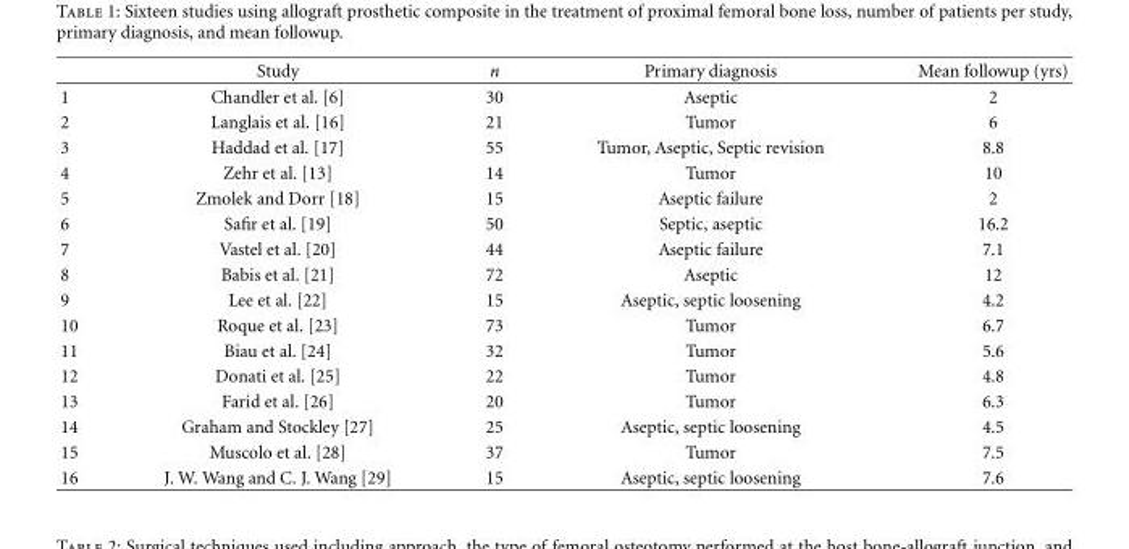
<table><thead><tr><td></td><td>Study</td><td>n</td><td>Primary diagnosis</td><td>Mean followup (yrs)</td></tr></thead><tbody><tr><td>1</td><td>Chandler et al. [6]</td><td>30</td><td>Aseptic</td><td>2</td></tr><tr><td>2</td><td>Langlais et al. [16]</td><td>21</td><td>Tumor</td><td>6</td></tr><tr><td>3</td><td>Haddad et al. [17]</td><td>55</td><td>Tumor, Aseptic, Septic revision</td><td>8.8</td></tr><tr><td>4</td><td>Zehr et al. [13]</td><td>14</td><td>Tumor</td><td>10</td></tr><tr><td>5</td><td>Zmolek and Dorr [18]</td><td>15</td><td>Aseptic failure</td><td>2</td></tr><tr><td>6</td><td>Safir et al. [19]</td><td>50</td><td>Septic, aseptic</td><td>16.2</td></tr><tr><td>7</td><td>Vastel et al. [20]</td><td>44</td><td>Aseptic failure</td><td>7.1</td></tr><tr><td>8</td><td>Babis et al. [21]</td><td>72</td><td>Aseptic</td><td>12</td></tr><tr><td>9</td><td>Lee et al. [22]</td><td>15</td><td>Aseptic, septic loosening</td><td>4.2</td></tr><tr><td>10</td><td>Roque et al. [23]</td><td>73</td><td>Tumor</td><td>6.7</td></tr><tr><td>11</td><td>Biau et al. [24]</td><td>32</td><td>Tumor</td><td>5.6</td></tr><tr><td>12</td><td>Donati et al. [25]</td><td>22</td><td>Tumor</td><td>4.8</td></tr><tr><td>13</td><td>Farid et al. [26]</td><td>20</td><td>Tumor</td><td>6.3</td></tr><tr><td>14</td><td>Graham and Stockley [27]</td><td>25</td><td>Aseptic, septic loosening</td><td>4.5</td></tr><tr><td>15</td><td>Muscolo et al. [28]</td><td>37</td><td>Tumor</td><td>7.5</td></tr><tr><td>16</td><td>J. W. Wang and C. J. Wang [29]</td><td>15</td><td>Aseptic, septic loosening</td><td>7.6</td></tr></tbody></table>